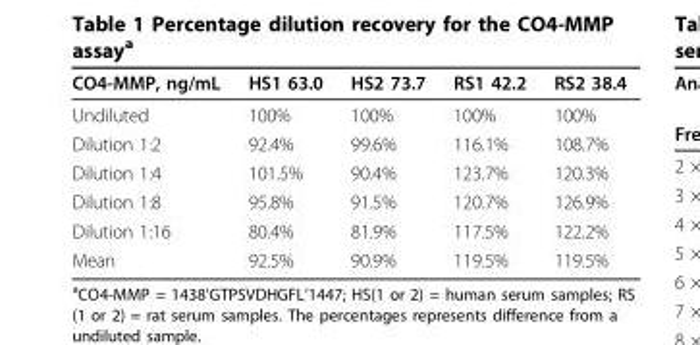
<table><thead><tr><td>CO4-MMP, ng/mL</td><td>HS1 63.0</td><td>HS2 73.7</td><td>RS1 42.2</td><td>RS2 38.4</td></tr></thead><tbody><tr><td>Undiluted</td><td>100%</td><td>100%</td><td>100%</td><td>100%</td></tr><tr><td>Dilution 1:2</td><td>92.4%</td><td>99.6%</td><td>116.1%</td><td>108.7%</td></tr><tr><td>Dilution 1:4</td><td>101.5%</td><td>90.4%</td><td>123.7%</td><td>120.3%</td></tr><tr><td>Dilution 1:8</td><td>95.8%</td><td>91.5%</td><td>120.7%</td><td>126.9%</td></tr><tr><td>Dilution 1:16</td><td>80.4%</td><td>81.9%</td><td>117.5%</td><td>122.2%</td></tr><tr><td>Mean</td><td>92.5%</td><td>90.9%</td><td>119.5%</td><td>119.5%</td></tr></tbody></table>